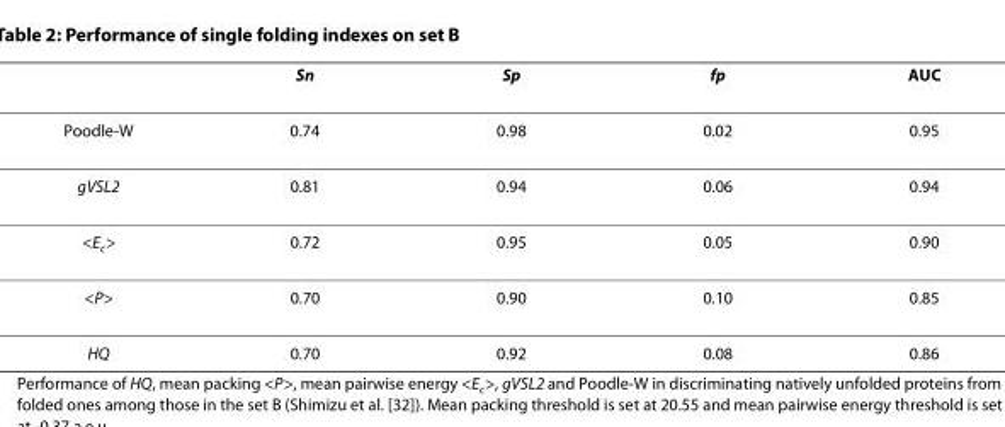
<table><thead><tr><td></td><td>S<sub>n</sub></td><td>S<sub>p</sub></td><td>f<sub>p</sub></td><td>AUC</td></tr></thead><tbody><tr><td>Poodle-W</td><td>0.74</td><td>0.98</td><td>0.02</td><td>0.95</td></tr><tr><td>gVSL2</td><td>0.81</td><td>0.94</td><td>0.06</td><td>0.94</td></tr><tr><td>&lt;E<sub>c</sub>&gt;</td><td>0.72</td><td>0.95</td><td>0.05</td><td>0.90</td></tr><tr><td>&lt;P&gt;</td><td>0.70</td><td>0.90</td><td>0.10</td><td>0.85</td></tr><tr><td>HQ</td><td>0.70</td><td>0.92</td><td>0.08</td><td>0.86</td></tr></tbody></table>